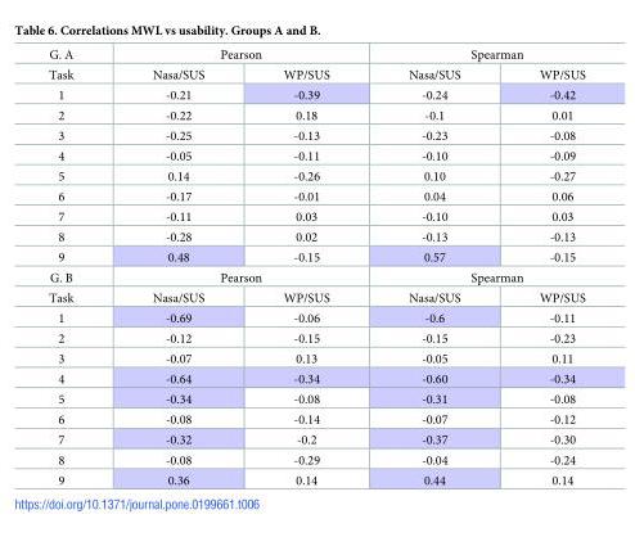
<table><tbody><tr><td>G. A</td><td colspan="2">Pearson</td><td colspan="2">Spearman</td></tr><tr><td>Task</td><td>Nasa/SUS</td><td>WP/SUS</td><td>Nasa/SUS</td><td>WP/SUS</td></tr><tr><td>1</td><td>-0.21</td><td>-0.39</td><td>-0.24</td><td>-0.42</td></tr><tr><td>2</td><td>-0.22</td><td>0.18</td><td>-0.1</td><td>0.01</td></tr><tr><td>3</td><td>-0.25</td><td>-0.13</td><td>-0.23</td><td>-0.08</td></tr><tr><td>4</td><td>-0.05</td><td>-0.11</td><td>-0.10</td><td>-0.09</td></tr><tr><td>5</td><td>0.14</td><td>-0.26</td><td>0.10</td><td>-0.27</td></tr><tr><td>6</td><td>-0.17</td><td>-0.01</td><td>0.04</td><td>0.06</td></tr><tr><td>7</td><td>-0.11</td><td>0.03</td><td>-0.10</td><td>0.03</td></tr><tr><td>8</td><td>-0.28</td><td>0.02</td><td>-0.13</td><td>-0.13</td></tr><tr><td>9</td><td>0.48</td><td>-0.15</td><td>0.57</td><td>-0.15</td></tr><tr><td>G. B</td><td colspan="2">Pearson</td><td colspan="2">Spearman</td></tr><tr><td>Task</td><td>Nasa/SUS</td><td>WP/SUS</td><td>Nasa/SUS</td><td>WP/SUS</td></tr><tr><td>1</td><td>-0.69</td><td>-0.06</td><td>-0.6</td><td>-0.11</td></tr><tr><td>2</td><td>-0.12</td><td>-0.15</td><td>-0.15</td><td>-0.23</td></tr><tr><td>3</td><td>-0.07</td><td>0.13</td><td>-0.05</td><td>0.11</td></tr><tr><td>4</td><td>-0.64</td><td>-0.34</td><td>-0.60</td><td>-0.34</td></tr><tr><td>5</td><td>-0.34</td><td>-0.08</td><td>-0.31</td><td>-0.08</td></tr><tr><td>6</td><td>-0.08</td><td>-0.14</td><td>-0.07</td><td>-0.12</td></tr><tr><td>7</td><td>-0.32</td><td>-0.2</td><td>-0.37</td><td>-0.30</td></tr><tr><td>8</td><td>-0.08</td><td>-0.29</td><td>-0.04</td><td>-0.24</td></tr><tr><td>9</td><td>0.36</td><td>0.14</td><td>0.44</td><td>0.14</td></tr></tbody></table>